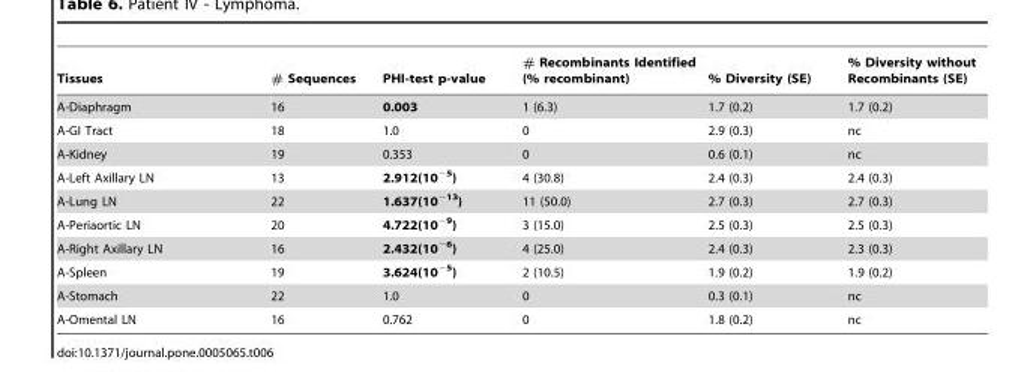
<table><thead><tr><td>Tissues</td><td># Sequences</td><td>PHI-test p-value</td><td># Recombinants Identified (% recombinant)</td><td>% Diversity (SE)</td><td>% Diversity without Recombinants (SE)</td></tr></thead><tbody><tr><td>A-Diaphragm</td><td>16</td><td>0.003</td><td>1 (6.3)</td><td>1.7 (0.2)</td><td>1.7 (0.2)</td></tr><tr><td>A-GI Tract</td><td>18</td><td>1.0</td><td>0</td><td>2.9 (0.3)</td><td>nc</td></tr><tr><td>A-Kidney</td><td>19</td><td>0.353</td><td>0</td><td>0.6 (0.1)</td><td>nc</td></tr><tr><td>A-Left Axillary LN</td><td>13</td><td>2.912(10<sup>−5</sup>)</td><td>4 (30.8)</td><td>2.4 (0.3)</td><td>2.4 (0.3)</td></tr><tr><td>A-Lung LN</td><td>22</td><td>1.637(10<sup>−13</sup>)</td><td>11 (50.0)</td><td>2.7 (0.3)</td><td>2.7 (0.3)</td></tr><tr><td>A-Periaortic LN</td><td>20</td><td>4.722(10<sup>−9</sup>)</td><td>3 (15.0)</td><td>2.5 (0.3)</td><td>2.5 (0.3)</td></tr><tr><td>A-Right Axillary LN</td><td>16</td><td>2.432(10<sup>−6</sup>)</td><td>4 (25.0)</td><td>2.4 (0.3)</td><td>2.3 (0.3)</td></tr><tr><td>A-Spleen</td><td>19</td><td>3.624(10<sup>−5</sup>)</td><td>2 (10.5)</td><td>1.9 (0.2)</td><td>1.9 (0.2)</td></tr><tr><td>A-Stomach</td><td>22</td><td>1.0</td><td>0</td><td>0.3 (0.1)</td><td>nc</td></tr><tr><td>A-Omental LN</td><td>16</td><td>0.762</td><td>0</td><td>1.8 (0.2)</td><td>nc</td></tr></tbody></table>